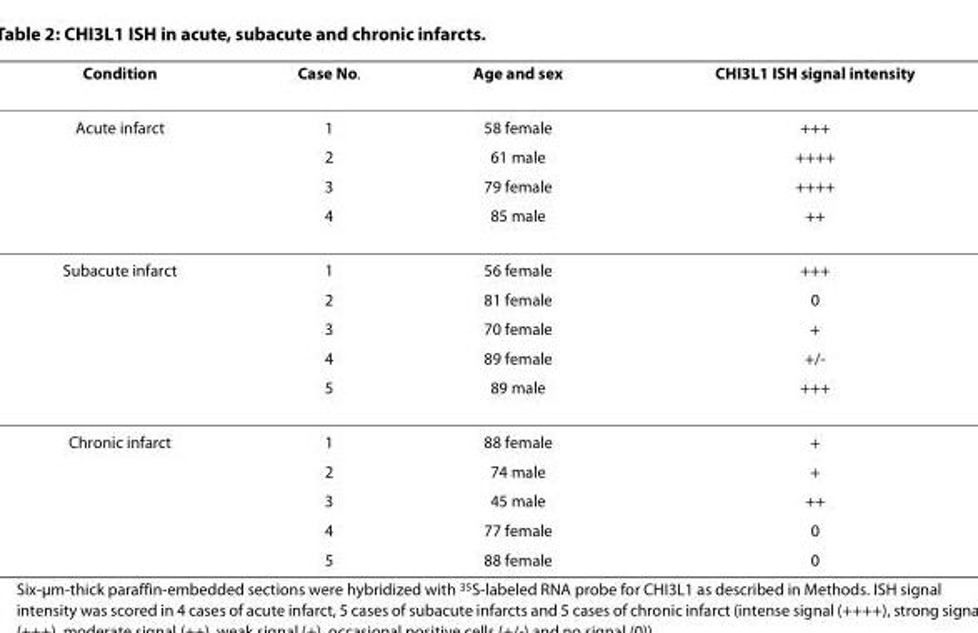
<table><thead><tr><td>Condition</td><td>Case No.</td><td>Age and sex</td><td>CHI3L1 ISH signal intensity</td></tr></thead><tbody><tr><td rowspan="4">Acute infarct</td><td>1</td><td>58 female</td><td>+++</td></tr><tr><td>2</td><td>61 male</td><td>++++</td></tr><tr><td>3</td><td>79 female</td><td>++++</td></tr><tr><td>4</td><td>85 male</td><td>++</td></tr><tr><td rowspan="5">Subacute infarct</td><td>1</td><td>56 female</td><td>+++</td></tr><tr><td>2</td><td>81 female</td><td>0</td></tr><tr><td>3</td><td>70 female</td><td>+</td></tr><tr><td>4</td><td>89 female</td><td>+/-</td></tr><tr><td>5</td><td>89 male</td><td>+++</td></tr><tr><td rowspan="5">Chronic infarct</td><td>1</td><td>88 female</td><td>+</td></tr><tr><td>2</td><td>74 male</td><td>+</td></tr><tr><td>3</td><td>45 male</td><td>++</td></tr><tr><td>4</td><td>77 female</td><td>0</td></tr><tr><td>5</td><td>88 female</td><td>0</td></tr></tbody></table>